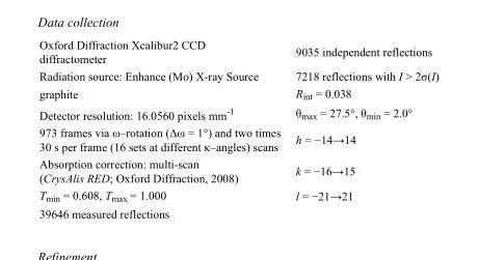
<table><tbody><tr><td>Oxford Diffraction Xcalibur2 CCD diffractometer</td><td>9035 independent reflections</td></tr><tr><td>Radiation source: Enhance (Mo) X-ray Source</td><td>7218 reflections with I &gt; 2σ(I)</td></tr><tr><td>graphite</td><td>R<sub>int</sub> = 0.038</td></tr><tr><td>Detector resolution: 16.0560 pixels mm<sup>-1</sup></td><td>θ<sub>max</sub> = 27.5°, θ<sub>min</sub> = 2.0°</td></tr><tr><td>973 frames via ω–rotation (Δω = 1°) and two times 30 s per frame (16 sets at different κ–angles) scans</td><td>h = −14→14</td></tr><tr><td>Absorption correction: multi-scan (CrysAlis RED; Oxford Diffraction, 2008)</td><td>k = −16→15</td></tr><tr><td>T<sub>min</sub> = 0.608, T<sub>max</sub> = 1.000</td><td>l = −21→21</td></tr><tr><td>39646 measured reflections</td><td></td></tr></tbody></table>